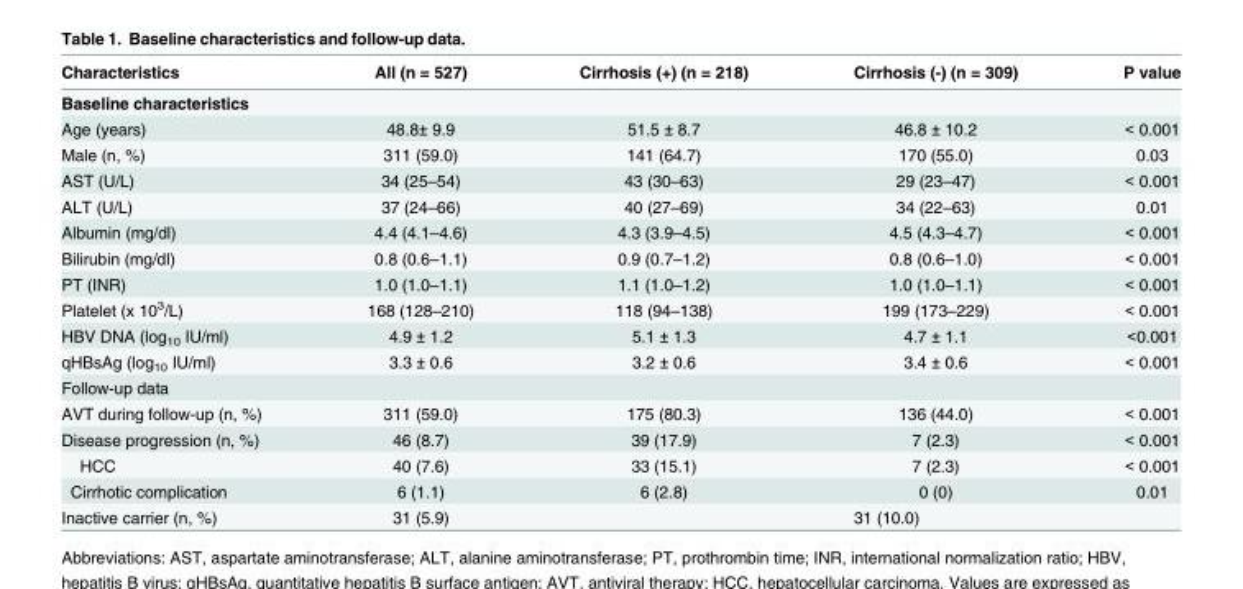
<table><thead><tr><td>Characteristics</td><td>All (n = 527)</td><td>Cirrhosis (+) (n = 218)</td><td>Cirrhosis (-) (n = 309)</td><td>P value</td></tr></thead><tbody><tr><td colspan="5">Baseline characteristics</td></tr><tr><td>Age (years)</td><td>48.8± 9.9</td><td>51.5 ± 8.7</td><td>46.8 ± 10.2</td><td>&lt; 0.001</td></tr><tr><td>Male (n, %)</td><td>311 (59.0)</td><td>141 (64.7)</td><td>170 (55.0)</td><td>0.03</td></tr><tr><td>AST (U/L)</td><td>34 (25–54)</td><td>43 (30–63)</td><td>29 (23–47)</td><td>&lt; 0.001</td></tr><tr><td>ALT (U/L)</td><td>37 (24–66)</td><td>40 (27–69)</td><td>34 (22–63)</td><td>0.01</td></tr><tr><td>Albumin (mg/dl)</td><td>4.4 (4.1–4.6)</td><td>4.3 (3.9–4.5)</td><td>4.5 (4.3–4.7)</td><td>&lt; 0.001</td></tr><tr><td>Bilirubin (mg/dl)</td><td>0.8 (0.6–1.1)</td><td>0.9 (0.7–1.2)</td><td>0.8 (0.6–1.0)</td><td>&lt; 0.001</td></tr><tr><td>PT (INR)</td><td>1.0 (1.0–1.1)</td><td>1.1 (1.0–1.2)</td><td>1.0 (1.0–1.1)</td><td>&lt; 0.001</td></tr><tr><td>Platelet (x 10<sup>3</sup>/L)</td><td>168 (128–210)</td><td>118 (94–138)</td><td>199 (173–229)</td><td>&lt; 0.001</td></tr><tr><td>HBV DNA (log<sub>10</sub> IU/ml)</td><td>4.9 ± 1.2</td><td>5.1 ± 1.3</td><td>4.7 ± 1.1</td><td>&lt;0.001</td></tr><tr><td>qHBsAg (log<sub>10</sub> IU/ml)</td><td>3.3 ± 0.6</td><td>3.2 ± 0.6</td><td>3.4 ± 0.6</td><td>&lt; 0.001</td></tr><tr><td colspan="5">Follow-up data</td></tr><tr><td>AVT during follow-up (n, %)</td><td>311 (59.0)</td><td>175 (80.3)</td><td>136 (44.0)</td><td>&lt; 0.001</td></tr><tr><td>Disease progression (n, %)</td><td>46 (8.7)</td><td>39 (17.9)</td><td>7 (2.3)</td><td>&lt; 0.001</td></tr><tr><td>HCC</td><td>40 (7.6)</td><td>33 (15.1)</td><td>7 (2.3)</td><td>&lt; 0.001</td></tr><tr><td>Cirrhotic complication</td><td>6 (1.1)</td><td>6 (2.8)</td><td>0 (0)</td><td>0.01</td></tr><tr><td>Inactive carrier (n, %)</td><td>31 (5.9)</td><td></td><td>31 (10.0)</td><td></td></tr></tbody></table>